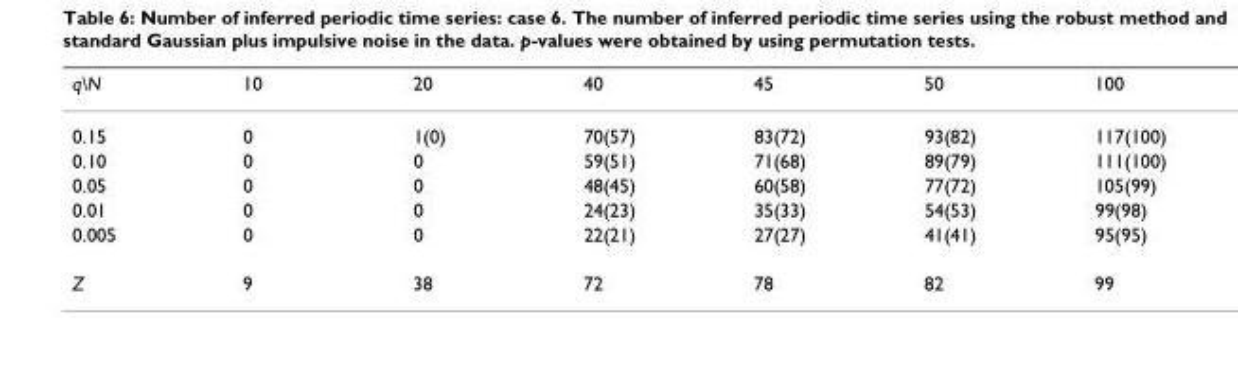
<table><thead><tr><td>q\N</td><td>10</td><td>20</td><td>40</td><td>45</td><td>50</td><td>100</td></tr></thead><tbody><tr><td>0.15</td><td>0</td><td>1(0)</td><td>70(57)</td><td>83(72)</td><td>93(82)</td><td>117(100)</td></tr><tr><td>0.10</td><td>0</td><td>0</td><td>59(51)</td><td>71(68)</td><td>89(79)</td><td>111(100)</td></tr><tr><td>0.05</td><td>0</td><td>0</td><td>48(45)</td><td>60(58)</td><td>77(72)</td><td>105(99)</td></tr><tr><td>0.01</td><td>0</td><td>0</td><td>24(23)</td><td>35(33)</td><td>54(53)</td><td>99(98)</td></tr><tr><td>0.005</td><td>0</td><td>0</td><td>22(21)</td><td>27(27)</td><td>41(41)</td><td>95(95)</td></tr><tr><td>Z</td><td>9</td><td>38</td><td>72</td><td>78</td><td>82</td><td>99</td></tr></tbody></table>